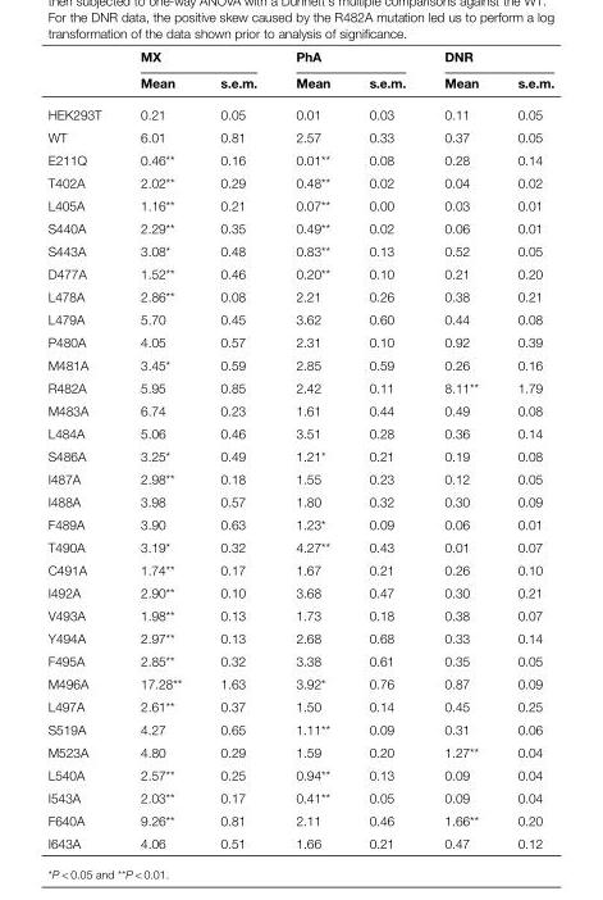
<table><thead><tr><td rowspan="2"></td><td colspan="2">MX</td><td colspan="2">PhA</td><td colspan="2">DNR</td></tr><tr><td>Mean</td><td>s.e.m.</td><td>Mean</td><td>s.e.m.</td><td>Mean</td><td>s.e.m.</td></tr></thead><tbody><tr><td>HEK293T</td><td>0.21</td><td>0.05</td><td>0.01</td><td>0.03</td><td>0.11</td><td>0.05</td></tr><tr><td>WT</td><td>6.01</td><td>0.81</td><td>2.57</td><td>0.33</td><td>0.37</td><td>0.05</td></tr><tr><td>E211Q</td><td>0.46**</td><td>0.16</td><td>0.01**</td><td>0.08</td><td>0.28</td><td>0.14</td></tr><tr><td>T402A</td><td>2.02**</td><td>0.29</td><td>0.48**</td><td>0.02</td><td>0.04</td><td>0.02</td></tr><tr><td>L405A</td><td>1.16**</td><td>0.21</td><td>0.07**</td><td>0.00</td><td>0.03</td><td>0.01</td></tr><tr><td>S440A</td><td>2.29**</td><td>0.35</td><td>0.49**</td><td>0.02</td><td>0.06</td><td>0.01</td></tr><tr><td>S443A</td><td>3.08*</td><td>0.48</td><td>0.83**</td><td>0.13</td><td>0.52</td><td>0.05</td></tr><tr><td>D477A</td><td>1.52**</td><td>0.46</td><td>0.20**</td><td>0.10</td><td>0.21</td><td>0.20</td></tr><tr><td>L478A</td><td>2.86**</td><td>0.08</td><td>2.21</td><td>0.26</td><td>0.38</td><td>0.21</td></tr><tr><td>L479A</td><td>5.70</td><td>0.45</td><td>3.62</td><td>0.60</td><td>0.44</td><td>0.08</td></tr><tr><td>P480A</td><td>4.05</td><td>0.57</td><td>2.31</td><td>0.10</td><td>0.92</td><td>0.39</td></tr><tr><td>M481A</td><td>3.45*</td><td>0.59</td><td>2.85</td><td>0.59</td><td>0.26</td><td>0.16</td></tr><tr><td>R482A</td><td>5.95</td><td>0.85</td><td>2.42</td><td>0.11</td><td>8.11**</td><td>1.79</td></tr><tr><td>M483A</td><td>6.74</td><td>0.23</td><td>1.61</td><td>0.44</td><td>0.49</td><td>0.08</td></tr><tr><td>L484A</td><td>5.06</td><td>0.46</td><td>3.51</td><td>0.28</td><td>0.36</td><td>0.14</td></tr><tr><td>S486A</td><td>3.25*</td><td>0.49</td><td>1.21*</td><td>0.21</td><td>0.19</td><td>0.08</td></tr><tr><td>I487A</td><td>2.98**</td><td>0.18</td><td>1.55</td><td>0.23</td><td>0.12</td><td>0.05</td></tr><tr><td>I488A</td><td>3.98</td><td>0.57</td><td>1.80</td><td>0.32</td><td>0.30</td><td>0.09</td></tr><tr><td>F489A</td><td>3.90</td><td>0.63</td><td>1.23*</td><td>0.09</td><td>0.06</td><td>0.01</td></tr><tr><td>T490A</td><td>3.19*</td><td>0.32</td><td>4.27**</td><td>0.43</td><td>0.01</td><td>0.07</td></tr><tr><td>C491A</td><td>1.74**</td><td>0.17</td><td>1.67</td><td>0.21</td><td>0.26</td><td>0.10</td></tr><tr><td>I492A</td><td>2.90**</td><td>0.10</td><td>3.68</td><td>0.47</td><td>0.30</td><td>0.21</td></tr><tr><td>V493A</td><td>1.98**</td><td>0.13</td><td>1.73</td><td>0.18</td><td>0.38</td><td>0.07</td></tr><tr><td>Y494A</td><td>2.97**</td><td>0.13</td><td>2.68</td><td>0.68</td><td>0.33</td><td>0.14</td></tr><tr><td>F495A</td><td>2.85**</td><td>0.32</td><td>3.38</td><td>0.61</td><td>0.35</td><td>0.05</td></tr><tr><td>M496A</td><td>17.28**</td><td>1.63</td><td>3.92*</td><td>0.76</td><td>0.87</td><td>0.09</td></tr><tr><td>L497A</td><td>2.61**</td><td>0.37</td><td>1.50</td><td>0.14</td><td>0.45</td><td>0.25</td></tr><tr><td>S519A</td><td>4.27</td><td>0.65</td><td>1.11**</td><td>0.09</td><td>0.31</td><td>0.06</td></tr><tr><td>M523A</td><td>4.80</td><td>0.29</td><td>1.59</td><td>0.20</td><td>1.27**</td><td>0.04</td></tr><tr><td>L540A</td><td>2.57**</td><td>0.25</td><td>0.94**</td><td>0.13</td><td>0.09</td><td>0.04</td></tr><tr><td>I543A</td><td>2.03**</td><td>0.17</td><td>0.41**</td><td>0.05</td><td>0.09</td><td>0.04</td></tr><tr><td>F640A</td><td>9.26**</td><td>0.81</td><td>2.11</td><td>0.46</td><td>1.66**</td><td>0.20</td></tr><tr><td>I643A</td><td>4.06</td><td>0.51</td><td>1.66</td><td>0.21</td><td>0.47</td><td>0.12</td></tr></tbody></table>